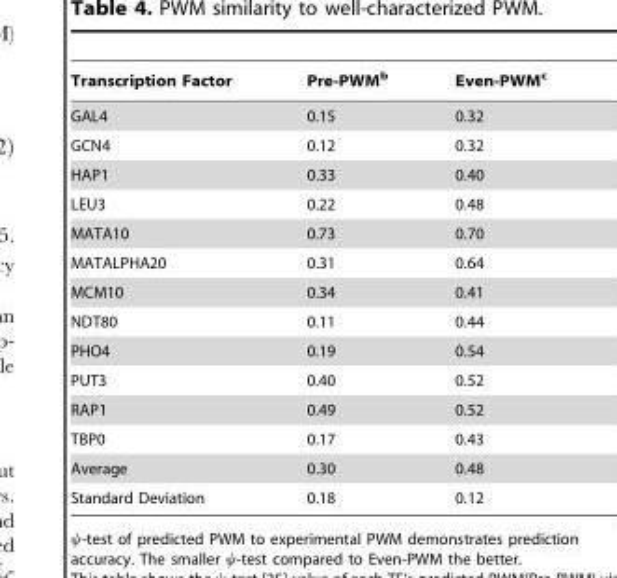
<table><thead><tr><td>Transcription Factor</td><td>Pre-PWM<sup>b</sup></td><td>Even-PWM<sup>c</sup></td></tr></thead><tbody><tr><td>GAL4</td><td>0.15</td><td>0.32</td></tr><tr><td>GCN4</td><td>0.12</td><td>0.32</td></tr><tr><td>HAP1</td><td>0.33</td><td>0.40</td></tr><tr><td>LEU3</td><td>0.22</td><td>0.48</td></tr><tr><td>MATA10</td><td>0.73</td><td>0.70</td></tr><tr><td>MATALPHA20</td><td>0.31</td><td>0.64</td></tr><tr><td>MCM10</td><td>0.34</td><td>0.41</td></tr><tr><td>NDT80</td><td>0.11</td><td>0.44</td></tr><tr><td>PHO4</td><td>0.19</td><td>0.54</td></tr><tr><td>PUT3</td><td>0.40</td><td>0.52</td></tr><tr><td>RAP1</td><td>0.49</td><td>0.52</td></tr><tr><td>TBP0</td><td>0.17</td><td>0.43</td></tr><tr><td>Average</td><td>0.30</td><td>0.48</td></tr><tr><td>Standard Deviation</td><td>0.18</td><td>0.12</td></tr></tbody></table>